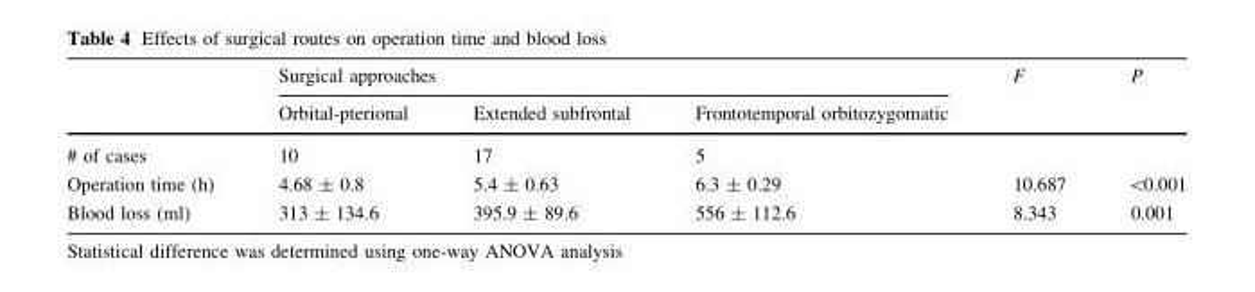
<table><thead><tr><td rowspan="2"></td><td colspan="3">Surgical approaches</td><td rowspan="2">F</td><td rowspan="2">P</td></tr><tr><td>Orbital-pterional</td><td>Extended subfrontal</td><td>Frontotemporal orbitozygomatic</td></tr></thead><tbody><tr><td># of cases</td><td>10</td><td>17</td><td>5</td><td></td><td></td></tr><tr><td>Operation time (h)</td><td>4.68 ± 0.8</td><td>5.4 ± 0.63</td><td>6.3 ± 0.29</td><td>10.687</td><td>&lt;0.001</td></tr><tr><td>Blood loss (ml)</td><td>313 ± 134.6</td><td>395.9 ± 89.6</td><td>556 ± 112.6</td><td>8.343</td><td>0.001</td></tr></tbody></table>